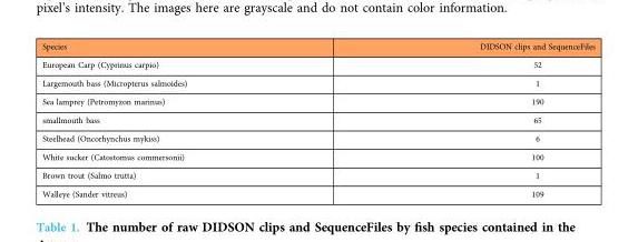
<table><thead><tr><td>Species</td><td>DIDSON clips and SequenceFiles</td></tr></thead><tbody><tr><td>European Carp (Cyprinus carpio)</td><td>52</td></tr><tr><td>Largemouth bass (Micropterus salmoides)</td><td>1</td></tr><tr><td>Sea lamprey (Petromyzon marinus)</td><td>190</td></tr><tr><td>smallmouth bass</td><td>65</td></tr><tr><td>Steelhead (Oncorhynchus mykiss)</td><td>6</td></tr><tr><td>White sucker (Catostomus commersonii)</td><td>100</td></tr><tr><td>Brown trout (Salmo trutta)</td><td>1</td></tr><tr><td>Walleye (Sander vitreus)</td><td>109</td></tr></tbody></table>